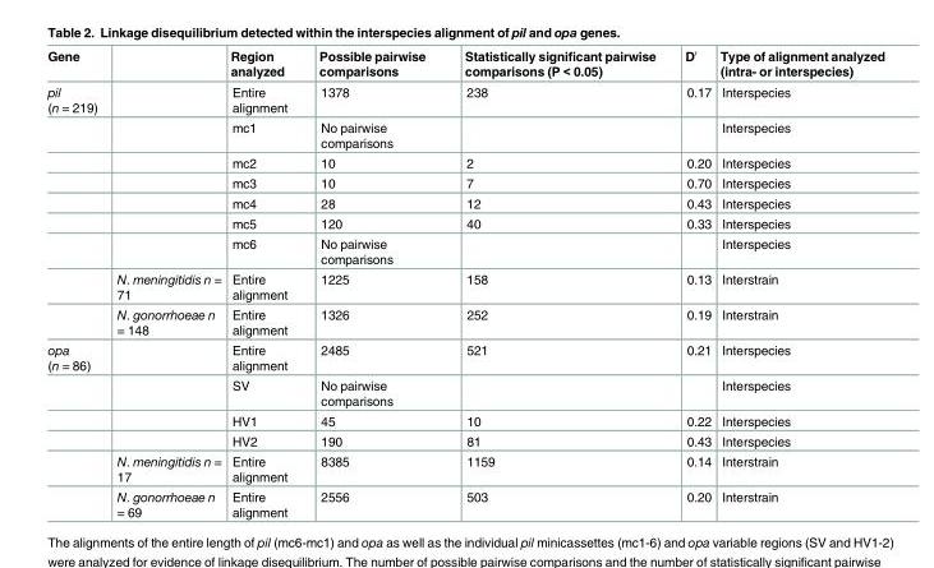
<table><thead><tr><td>Gene</td><td></td><td>Region analyzed</td><td>Possible pairwise comparisons</td><td>Statistically significant pairwise comparisons (P &lt; 0.05)</td><td>D′</td><td>Type of alignment analyzed (intra- or interspecies)</td></tr></thead><tbody><tr><td rowspan="9">pil (n = 219)</td><td></td><td>Entire alignment</td><td>1378</td><td>238</td><td>0.17</td><td>Interspecies</td></tr><tr><td></td><td>mc1</td><td>No pairwise comparisons</td><td></td><td></td><td>Interspecies</td></tr><tr><td></td><td>mc2</td><td>10</td><td>2</td><td>0.20</td><td>Interspecies</td></tr><tr><td></td><td>mc3</td><td>10</td><td>7</td><td>0.70</td><td>Interspecies</td></tr><tr><td></td><td>mc4</td><td>28</td><td>12</td><td>0.43</td><td>Interspecies</td></tr><tr><td></td><td>mc5</td><td>120</td><td>40</td><td>0.33</td><td>Interspecies</td></tr><tr><td></td><td>mc6</td><td>No pairwise comparisons</td><td></td><td></td><td>Interspecies</td></tr><tr><td>N. meningitidis n = 71</td><td>Entire alignment</td><td>1225</td><td>158</td><td>0.13</td><td>Interstrain</td></tr><tr><td>N. gonorrhoeae n = 148</td><td>Entire alignment</td><td>1326</td><td>252</td><td>0.19</td><td>Interstrain</td></tr><tr><td rowspan="6">opa (n = 86)</td><td></td><td>Entire alignment</td><td>2485</td><td>521</td><td>0.21</td><td>Interspecies</td></tr><tr><td></td><td>SV</td><td>No pairwise comparisons</td><td></td><td></td><td>Interspecies</td></tr><tr><td></td><td>HV1</td><td>45</td><td>10</td><td>0.22</td><td>Interspecies</td></tr><tr><td></td><td>HV2</td><td>190</td><td>81</td><td>0.43</td><td>Interspecies</td></tr><tr><td>N. meningitidis n = 17</td><td>Entire alignment</td><td>8385</td><td>1159</td><td>0.14</td><td>Interstrain</td></tr><tr><td>N. gonorrhoeae n = 69</td><td>Entire alignment</td><td>2556</td><td>503</td><td>0.20</td><td>Interstrain</td></tr></tbody></table>